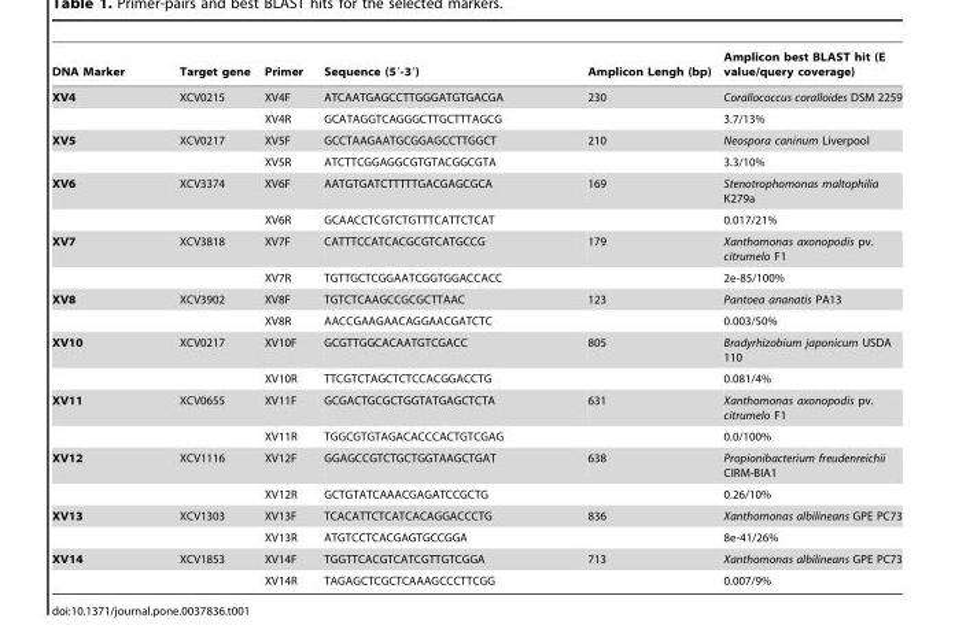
<table><thead><tr><td>DNA Marker</td><td>Target gene</td><td>Primer</td><td>Sequence (5′-3′)</td><td>Amplicon Lengh (bp)</td><td>Amplicon best BLAST hit (E value/query coverage)</td></tr></thead><tbody><tr><td rowspan="2">XV4</td><td>XCV0215</td><td>XV4F</td><td>ATCAATGAGCCTTGGGATGTGACGA</td><td>230</td><td>Corallococcus coralloides DSM 2259</td></tr><tr><td></td><td>XV4R</td><td>GCATAGGTCAGGGCTTGCTTTAGCG</td><td></td><td>3.7/13%</td></tr><tr><td rowspan="2">XV5</td><td>XCV0217</td><td>XV5F</td><td>GCCTAAGAATGCGGAGCCTTGGCT</td><td>210</td><td>Neospora caninum Liverpool</td></tr><tr><td></td><td>XV5R</td><td>ATCTTCGGAGGCGTGTACGGCGTA</td><td></td><td>3.3/10%</td></tr><tr><td rowspan="2">XV6</td><td>XCV3374</td><td>XV6F</td><td>AATGTGATCTTTTTGACGAGCGCA</td><td>169</td><td>Stenotrophomonas maltophilia K279a</td></tr><tr><td></td><td>XV6R</td><td>GCAACCTCGTCTGTTTCATTCTCAT</td><td></td><td>0.017/21%</td></tr><tr><td rowspan="2">XV7</td><td>XCV3818</td><td>XV7F</td><td>CATTTCCATCACGCGTCATGCCG</td><td>179</td><td>Xanthomonas axonopodis pv. citrumelo F1</td></tr><tr><td></td><td>XV7R</td><td>TGTTGCTCGGAATCGGTGGACCACC</td><td></td><td>2e-85/100%</td></tr><tr><td rowspan="2">XV8</td><td>XCV3902</td><td>XV8F</td><td>TGTCTCAAGCCGCGCTTAAC</td><td>123</td><td>Pantoea ananatis PA13</td></tr><tr><td></td><td>XV8R</td><td>AACCGAAGAACAGGAACGATCTC</td><td></td><td>0.003/50%</td></tr><tr><td rowspan="2">XV10</td><td>XCV0217</td><td>XV10F</td><td>GCGTTGGCACAATGTCGACC</td><td>805</td><td>Bradyrhizobium japonicum USDA 110</td></tr><tr><td></td><td>XV10R</td><td>TTCGTCTAGCTCTCCACGGACCTG</td><td></td><td>0.081/4%</td></tr><tr><td rowspan="2">XV11</td><td>XCV0655</td><td>XV11F</td><td>GCGACTGCGCTGGTATGAGCTCTA</td><td>631</td><td>Xanthomonas axonopodis pv. citrumelo F1</td></tr><tr><td></td><td>XV11R</td><td>TGGCGTGTAGACACCCACTGTCGAG</td><td></td><td>0.0/100%</td></tr><tr><td rowspan="2">XV12</td><td>XCV1116</td><td>XV12F</td><td>GGAGCCGTCTGCTGGTAAGCTGAT</td><td>638</td><td>Propionibacterium freudenreichii CIRM-BIA1</td></tr><tr><td></td><td>XV12R</td><td>GCTGTATCAAACGAGATCCGCTG</td><td></td><td>0.26/10%</td></tr><tr><td rowspan="2">XV13</td><td>XCV1303</td><td>XV13F</td><td>TCACATTCTCATCACAGGACCCTG</td><td>836</td><td>Xanthomonas albilineans GPE PC73</td></tr><tr><td></td><td>XV13R</td><td>ATGTCCTCACGAGTGCCGGA</td><td></td><td>8e-41/26%</td></tr><tr><td rowspan="2">XV14</td><td>XCV1853</td><td>XV14F</td><td>TGGTTCACGTCATCGTTGTCGGA</td><td>713</td><td>Xanthomonas albilineans GPE PC73</td></tr><tr><td></td><td>XV14R</td><td>TAGAGCTCGCTCAAAGCCCTTCGG</td><td></td><td>0.007/9%</td></tr></tbody></table>